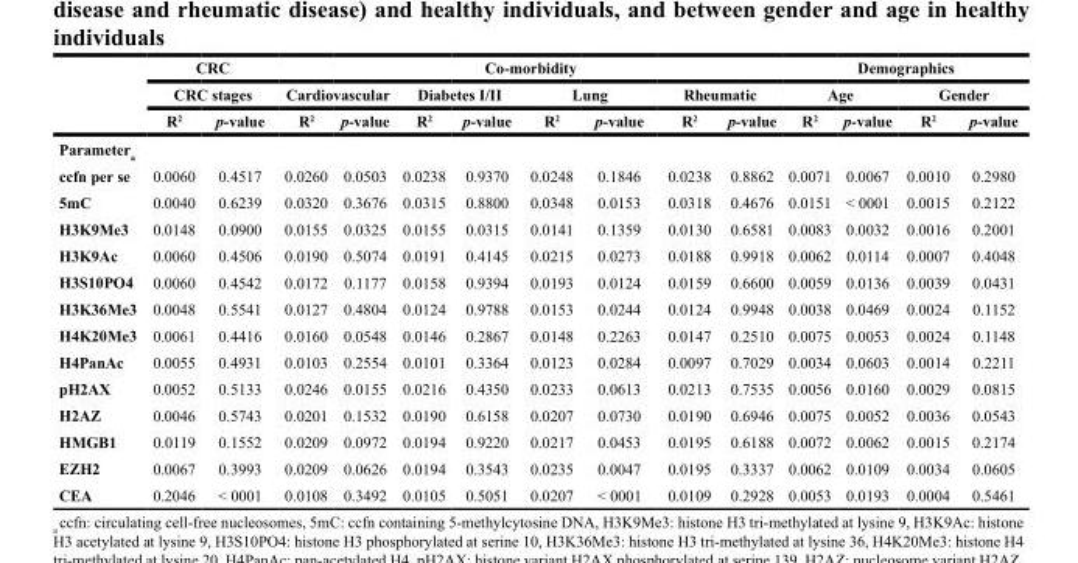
<table><thead><tr><td rowspan="3"></td><td rowspan="2" colspan="2">CRC CRC stages</td><td colspan="8">Co-morbidity</td><td colspan="4">Demographics</td></tr><tr><td colspan="2">Cardiovascular</td><td colspan="2">Diabetes I/II</td><td colspan="2">Lung</td><td colspan="2">Rheumatic</td><td colspan="2">Age</td><td colspan="2">Gender</td></tr><tr><td>R<sup>2</sup></td><td>p-value</td><td>R<sup>2</sup></td><td>p-value</td><td>R<sup>2</sup></td><td>p-value</td><td>R<sup>2</sup></td><td>p-value</td><td>R<sup>2</sup></td><td>p-value</td><td>R<sup>2</sup></td><td>p-value</td><td>R<sup>2</sup></td><td>p-value</td></tr></thead><tbody><tr><td colspan="15">Parameter<sub>a</sub></td></tr><tr><td>ccfn per se</td><td>0.0060</td><td>0.4517</td><td>0.0260</td><td>0.0503</td><td>0.0238</td><td>0.9370</td><td>0.0248</td><td>0.1846</td><td>0.0238</td><td>0.8862</td><td>0.0071</td><td>0.0067</td><td>0.0010</td><td>0.2980</td></tr><tr><td>5mC</td><td>0.0040</td><td>0.6239</td><td>0.0320</td><td>0.3676</td><td>0.0315</td><td>0.8800</td><td>0.0348</td><td>0.0153</td><td>0.0318</td><td>0.4676</td><td>0.0151</td><td>&lt; 0001</td><td>0.0015</td><td>0.2122</td></tr><tr><td>H3K9Me3</td><td>0.0148</td><td>0.0900</td><td>0.0155</td><td>0.0325</td><td>0.0155</td><td>0.0315</td><td>0.0141</td><td>0.1359</td><td>0.0130</td><td>0.6581</td><td>0.0083</td><td>0.0032</td><td>0.0016</td><td>0.2001</td></tr><tr><td>H3K9Ac</td><td>0.0060</td><td>0.4506</td><td>0.0190</td><td>0.5074</td><td>0.0191</td><td>0.4145</td><td>0.0215</td><td>0.0273</td><td>0.0188</td><td>0.9918</td><td>0.0062</td><td>0.0114</td><td>0.0007</td><td>0.4048</td></tr><tr><td>H3S10PO4</td><td>0.0060</td><td>0.4542</td><td>0.0172</td><td>0.1177</td><td>0.0158</td><td>0.9394</td><td>0.0193</td><td>0.0124</td><td>0.0159</td><td>0.6600</td><td>0.0059</td><td>0.0136</td><td>0.0039</td><td>0.0431</td></tr><tr><td>H3K36Me3</td><td>0.0048</td><td>0.5541</td><td>0.0127</td><td>0.4804</td><td>0.0124</td><td>0.9788</td><td>0.0153</td><td>0.0244</td><td>0.0124</td><td>0.9948</td><td>0.0038</td><td>0.0469</td><td>0.0024</td><td>0.1152</td></tr><tr><td>H4K20Me3</td><td>0.0061</td><td>0.4416</td><td>0.0160</td><td>0.0548</td><td>0.0146</td><td>0.2867</td><td>0.0148</td><td>0.2263</td><td>0.0147</td><td>0.2510</td><td>0.0075</td><td>0.0053</td><td>0.0024</td><td>0.1148</td></tr><tr><td>H4PanAc</td><td>0.0055</td><td>0.4931</td><td>0.0103</td><td>0.2554</td><td>0.0101</td><td>0.3364</td><td>0.0123</td><td>0.0284</td><td>0.0097</td><td>0.7029</td><td>0.0034</td><td>0.0603</td><td>0.0014</td><td>0.2211</td></tr><tr><td>pH2AX</td><td>0.0052</td><td>0.5133</td><td>0.0246</td><td>0.0155</td><td>0.0216</td><td>0.4350</td><td>0.0233</td><td>0.0613</td><td>0.0213</td><td>0.7535</td><td>0.0056</td><td>0.0160</td><td>0.0029</td><td>0.0815</td></tr><tr><td>H2AZ</td><td>0.0046</td><td>0.5743</td><td>0.0201</td><td>0.1532</td><td>0.0190</td><td>0.6158</td><td>0.0207</td><td>0.0730</td><td>0.0190</td><td>0.6946</td><td>0.0075</td><td>0.0052</td><td>0.0036</td><td>0.0543</td></tr><tr><td>HMGB1</td><td>0.0119</td><td>0.1552</td><td>0.0209</td><td>0.0972</td><td>0.0194</td><td>0.9220</td><td>0.0217</td><td>0.0453</td><td>0.0195</td><td>0.6188</td><td>0.0072</td><td>0.0062</td><td>0.0015</td><td>0.2174</td></tr><tr><td>EZH2</td><td>0.0067</td><td>0.3993</td><td>0.0209</td><td>0.0626</td><td>0.0194</td><td>0.3543</td><td>0.0235</td><td>0.0047</td><td>0.0195</td><td>0.3337</td><td>0.0062</td><td>0.0109</td><td>0.0034</td><td>0.0605</td></tr><tr><td>CEA</td><td>0.2046</td><td>&lt; 0001</td><td>0.0108</td><td>0.3492</td><td>0.0105</td><td>0.5051</td><td>0.0207</td><td>&lt; 0001</td><td>0.0109</td><td>0.2928</td><td>0.0053</td><td>0.0193</td><td>0.0004</td><td>0.5461</td></tr></tbody></table>